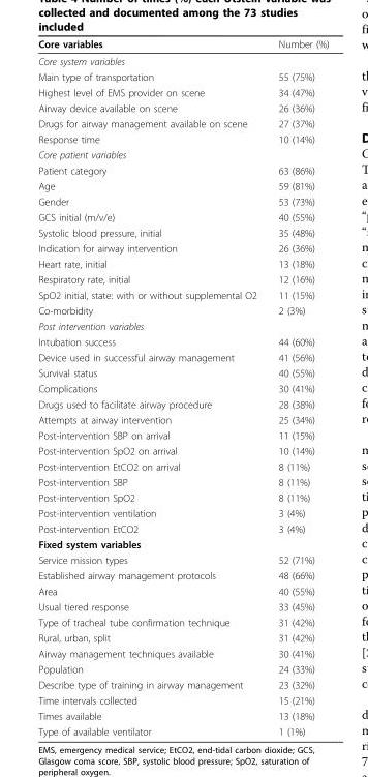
<table><thead><tr><td>Core variables</td><td>Number (%)</td></tr></thead><tbody><tr><td colspan="2">Core system variables</td></tr><tr><td>Main type of transportation</td><td>55 (75%)</td></tr><tr><td>Highest level of EMS provider on scene</td><td>34 (47%)</td></tr><tr><td>Airway device available on scene</td><td>26 (36%)</td></tr><tr><td>Drugs for airway management available on scene</td><td>27 (37%)</td></tr><tr><td>Response time</td><td>10 (14%)</td></tr><tr><td colspan="2">Core patient variables</td></tr><tr><td>Patient category</td><td>63 (86%)</td></tr><tr><td>Age</td><td>59 (81%)</td></tr><tr><td>Gender</td><td>53 (73%)</td></tr><tr><td>GCS initial (m/v/e)</td><td>40 (55%)</td></tr><tr><td>Systolic blood pressure, initial</td><td>35 (48%)</td></tr><tr><td>Indication for airway intervention</td><td>26 (36%)</td></tr><tr><td>Heart rate, initial</td><td>13 (18%)</td></tr><tr><td>Respiratory rate, initial</td><td>12 (16%)</td></tr><tr><td>SpO2 initial, state: with or without supplemental O2</td><td>11 (15%)</td></tr><tr><td>Co-morbidity</td><td>2 (3%)</td></tr><tr><td colspan="2">Post intervention variables</td></tr><tr><td>Intubation success</td><td>44 (60%)</td></tr><tr><td>Device used in successful airway management</td><td>41 (56%)</td></tr><tr><td>Survival status</td><td>40 (55%)</td></tr><tr><td>Complications</td><td>30 (41%)</td></tr><tr><td>Drugs used to facilitate airway procedure</td><td>28 (38%)</td></tr><tr><td>Attempts at airway intervention</td><td>25 (34%)</td></tr><tr><td>Post-intervention SBP on arrival</td><td>11 (15%)</td></tr><tr><td>Post-intervention SpO2 on arrival</td><td>10 (14%)</td></tr><tr><td>Post-intervention EtCO2 on arrival</td><td>8 (11%)</td></tr><tr><td>Post-intervention SBP</td><td>8 (11%)</td></tr><tr><td>Post-intervention SpO2</td><td>8 (11%)</td></tr><tr><td>Post-intervention ventilation</td><td>3 (4%)</td></tr><tr><td>Post-intervention EtCO2</td><td>3 (4%)</td></tr><tr><td colspan="2">Fixed system variables</td></tr><tr><td>Service mission types</td><td>52 (71%)</td></tr><tr><td>Established airway management protocols</td><td>48 (66%)</td></tr><tr><td>Area</td><td>40 (55%)</td></tr><tr><td>Usual tiered response</td><td>33 (45%)</td></tr><tr><td>Type of tracheal tube confirmation technique</td><td>31 (42%)</td></tr><tr><td>Rural, urban, split</td><td>31 (42%)</td></tr><tr><td>Airway management techniques available</td><td>30 (41%)</td></tr><tr><td>Population</td><td>24 (33%)</td></tr><tr><td>Describe type of training in airway management</td><td>23 (32%)</td></tr><tr><td>Time intervals collected</td><td>15 (21%)</td></tr><tr><td>Times available</td><td>13 (18%)</td></tr><tr><td>Type of available ventilator</td><td>1 (1%)</td></tr></tbody></table>